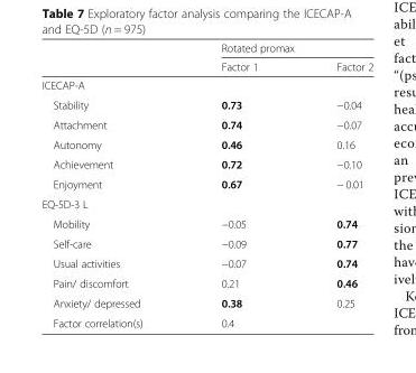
<table><thead><tr><td rowspan="2"></td><td colspan="2">Rotated promax</td></tr><tr><td>Factor 1</td><td>Factor 2</td></tr></thead><tbody><tr><td colspan="3">ICECAP-A</td></tr><tr><td>Stability</td><td>0.73</td><td>−0.04</td></tr><tr><td>Attachment</td><td>0.74</td><td>−0.07</td></tr><tr><td>Autonomy</td><td>0.46</td><td>0.16</td></tr><tr><td>Achievement</td><td>0.72</td><td>−0.10</td></tr><tr><td>Enjoyment</td><td>0.67</td><td>− 0.01</td></tr><tr><td colspan="3">EQ-5D-3 L</td></tr><tr><td>Mobility</td><td>−0.05</td><td>0.74</td></tr><tr><td>Self-care</td><td>−0.09</td><td>0.77</td></tr><tr><td>Usual activities</td><td>−0.07</td><td>0.74</td></tr><tr><td>Pain/ discomfort</td><td>0.21</td><td>0.46</td></tr><tr><td>Anxiety/ depressed</td><td>0.38</td><td>0.25</td></tr><tr><td>Factor correlation(s)</td><td colspan="2">0.4</td></tr></tbody></table>